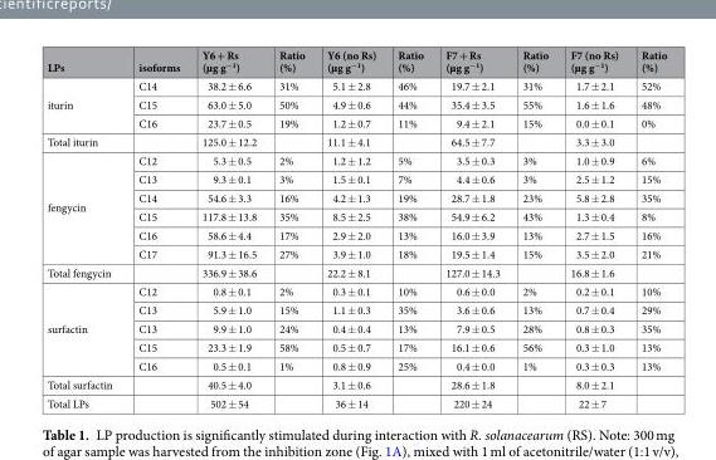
<table><thead><tr><td>LPs</td><td>isoforms</td><td>Y6 + Rs (µg g<sup>−1</sup>)</td><td>Ratio (%)</td><td>Y6 (no Rs) (µg g<sup>−1</sup>)</td><td>Ratio (%)</td><td>F7 + Rs (µg g<sup>−1</sup>)</td><td>Ratio (%)</td><td>F7 (no Rs) (µg g<sup>−1</sup>)</td><td>Ratio (%)</td></tr></thead><tbody><tr><td rowspan="3">iturin</td><td>C14</td><td>38.2 ± 6.6</td><td>31%</td><td>5.1 ± 2.8</td><td>46%</td><td>19.7 ± 2.1</td><td>31%</td><td>1.7 ± 2.1</td><td>52%</td></tr><tr><td>C15</td><td>63.0 ± 5.0</td><td>50%</td><td>4.9 ± 0.6</td><td>44%</td><td>35.4 ± 3.5</td><td>55%</td><td>1.6 ± 1.6</td><td>48%</td></tr><tr><td>C16</td><td>23.7 ± 0.5</td><td>19%</td><td>1.2 ± 0.7</td><td>11%</td><td>9.4 ± 2.1</td><td>15%</td><td>0.0 ± 0.1</td><td>0%</td></tr><tr><td>Total iturin</td><td></td><td>125.0 ± 12.2</td><td></td><td>11.1 ± 4.1</td><td></td><td>64.5 ± 7.7</td><td></td><td>3.3 ± 3.0</td><td></td></tr><tr><td rowspan="6">fengycin</td><td>C12</td><td>5.3 ± 0.5</td><td>2%</td><td>1.2 ± 1.2</td><td>5%</td><td>3.5 ± 0.3</td><td>3%</td><td>1.0 ± 0.9</td><td>6%</td></tr><tr><td>C13</td><td>9.3 ± 0.1</td><td>3%</td><td>1.5 ± 0.1</td><td>7%</td><td>4.4 ± 0.6</td><td>3%</td><td>2.5 ± 1.2</td><td>15%</td></tr><tr><td>C14</td><td>54.6 ± 3.3</td><td>16%</td><td>4.2 ± 1.3</td><td>19%</td><td>28.7 ± 1.8</td><td>23%</td><td>5.8 ± 2.8</td><td>35%</td></tr><tr><td>C15</td><td>117.8 ± 13.8</td><td>35%</td><td>8.5 ± 2.5</td><td>38%</td><td>54.9 ± 6.2</td><td>43%</td><td>1.3 ± 0.4</td><td>8%</td></tr><tr><td>C16</td><td>58.6 ± 4.4</td><td>17%</td><td>2.9 ± 2.0</td><td>13%</td><td>16.0 ± 3.9</td><td>13%</td><td>2.7 ± 1.5</td><td>16%</td></tr><tr><td>C17</td><td>91.3 ± 16.5</td><td>27%</td><td>3.9 ± 1.0</td><td>18%</td><td>19.5 ± 1.4</td><td>15%</td><td>3.5 ± 2.0</td><td>21%</td></tr><tr><td>Total fengycin</td><td></td><td>336.9 ± 38.6</td><td></td><td>22.2 ± 8.1</td><td></td><td>127.0 ± 14.3</td><td></td><td>16.8 ± 1.6</td><td></td></tr><tr><td rowspan="5">surfactin</td><td>C12</td><td>0.8 ± 0.1</td><td>2%</td><td>0.3 ± 0.1</td><td>10%</td><td>0.6 ± 0.0</td><td>2%</td><td>0.2 ± 0.1</td><td>10%</td></tr><tr><td>C13</td><td>5.9 ± 1.0</td><td>15%</td><td>1.1 ± 0.3</td><td>35%</td><td>3.6 ± 0.6</td><td>13%</td><td>0.7 ± 0.4</td><td>29%</td></tr><tr><td>C13</td><td>9.9 ± 1.0</td><td>24%</td><td>0.4 ± 0.4</td><td>13%</td><td>7.9 ± 0.5</td><td>28%</td><td>0.8 ± 0.3</td><td>35%</td></tr><tr><td>C15</td><td>23.3 ± 1.9</td><td>58%</td><td>0.5 ± 0.7</td><td>17%</td><td>16.1 ± 0.6</td><td>56%</td><td>0.3 ± 1.0</td><td>13%</td></tr><tr><td>C16</td><td>0.5 ± 0.1</td><td>1%</td><td>0.8 ± 0.9</td><td>25%</td><td>0.4 ± 0.0</td><td>1%</td><td>0.3 ± 0.3</td><td>13%</td></tr><tr><td>Total surfactin</td><td></td><td>40.5 ± 4.0</td><td></td><td>3.1 ± 0.6</td><td></td><td>28.6 ± 1.8</td><td></td><td>8.0 ± 2.1</td><td></td></tr><tr><td>Total LPs</td><td></td><td>502 ± 54</td><td></td><td>36 ± 14</td><td></td><td>220 ± 24</td><td></td><td>22 ± 7</td><td></td></tr></tbody></table>